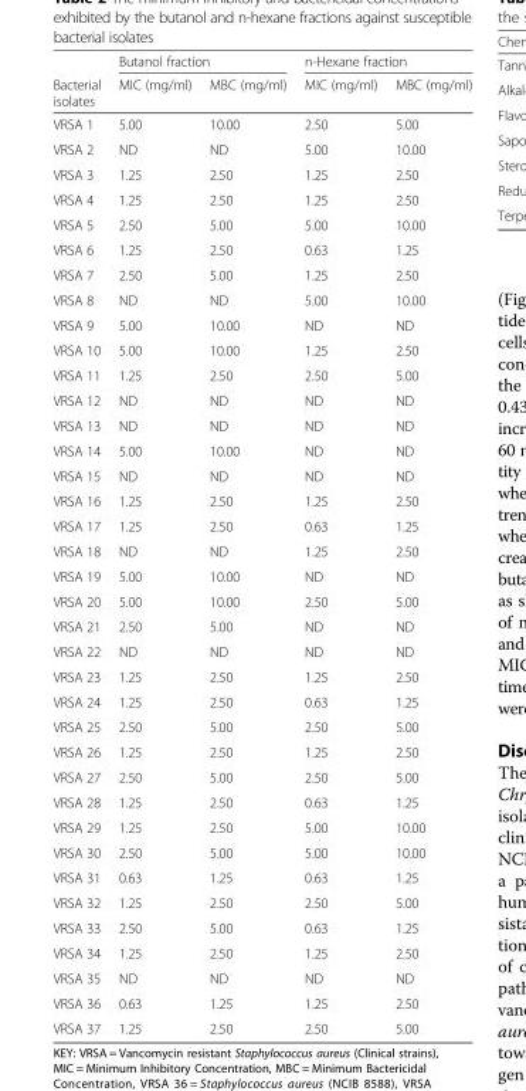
<table><thead><tr><td rowspan="2">Bacterial isolates</td><td colspan="2">Butanol fraction</td><td colspan="2">n-Hexane fraction</td></tr><tr><td>MIC (mg/ml)</td><td>MBC (mg/ml)</td><td>MIC (mg/ml)</td><td>MBC (mg/ml)</td></tr></thead><tbody><tr><td>VRSA 1</td><td>5.00</td><td>10.00</td><td>2.50</td><td>5.00</td></tr><tr><td>VRSA 2</td><td>ND</td><td>ND</td><td>5.00</td><td>10.00</td></tr><tr><td>VRSA 3</td><td>1.25</td><td>2.50</td><td>1.25</td><td>2.50</td></tr><tr><td>VRSA 4</td><td>1.25</td><td>2.50</td><td>1.25</td><td>2.50</td></tr><tr><td>VRSA 5</td><td>2.50</td><td>5.00</td><td>5.00</td><td>10.00</td></tr><tr><td>VRSA 6</td><td>1.25</td><td>2.50</td><td>0.63</td><td>1.25</td></tr><tr><td>VRSA 7</td><td>2.50</td><td>5.00</td><td>1.25</td><td>2.50</td></tr><tr><td>VRSA 8</td><td>ND</td><td>ND</td><td>5.00</td><td>10.00</td></tr><tr><td>VRSA 9</td><td>5.00</td><td>10.00</td><td>ND</td><td>ND</td></tr><tr><td>VRSA 10</td><td>5.00</td><td>10.00</td><td>1.25</td><td>2.50</td></tr><tr><td>VRSA 11</td><td>1.25</td><td>2.50</td><td>2.50</td><td>5.00</td></tr><tr><td>VRSA 12</td><td>ND</td><td>ND</td><td>ND</td><td>ND</td></tr><tr><td>VRSA 13</td><td>ND</td><td>ND</td><td>ND</td><td>ND</td></tr><tr><td>VRSA 14</td><td>5.00</td><td>10.00</td><td>ND</td><td>ND</td></tr><tr><td>VRSA 15</td><td>ND</td><td>ND</td><td>ND</td><td>ND</td></tr><tr><td>VRSA 16</td><td>1.25</td><td>2.50</td><td>1.25</td><td>2.50</td></tr><tr><td>VRSA 17</td><td>1.25</td><td>2.50</td><td>0.63</td><td>1.25</td></tr><tr><td>VRSA 18</td><td>ND</td><td>ND</td><td>1.25</td><td>2.50</td></tr><tr><td>VRSA 19</td><td>5.00</td><td>10.00</td><td>ND</td><td>ND</td></tr><tr><td>VRSA 20</td><td>5.00</td><td>10.00</td><td>2.50</td><td>5.00</td></tr><tr><td>VRSA 21</td><td>2.50</td><td>5.00</td><td>ND</td><td>ND</td></tr><tr><td>VRSA 22</td><td>ND</td><td>ND</td><td>ND</td><td>ND</td></tr><tr><td>VRSA 23</td><td>1.25</td><td>2.50</td><td>1.25</td><td>2.50</td></tr><tr><td>VRSA 24</td><td>1.25</td><td>2.50</td><td>0.63</td><td>1.25</td></tr><tr><td>VRSA 25</td><td>2.50</td><td>5.00</td><td>2.50</td><td>5.00</td></tr><tr><td>VRSA 26</td><td>1.25</td><td>2.50</td><td>1.25</td><td>2.50</td></tr><tr><td>VRSA 27</td><td>2.50</td><td>5.00</td><td>2.50</td><td>5.00</td></tr><tr><td>VRSA 28</td><td>1.25</td><td>2.50</td><td>0.63</td><td>1.25</td></tr><tr><td>VRSA 29</td><td>1.25</td><td>2.50</td><td>5.00</td><td>10.00</td></tr><tr><td>VRSA 30</td><td>2.50</td><td>5.00</td><td>5.00</td><td>10.00</td></tr><tr><td>VRSA 31</td><td>0.63</td><td>1.25</td><td>0.63</td><td>1.25</td></tr><tr><td>VRSA 32</td><td>1.25</td><td>2.50</td><td>2.50</td><td>5.00</td></tr><tr><td>VRSA 33</td><td>2.50</td><td>5.00</td><td>0.63</td><td>1.25</td></tr><tr><td>VRSA 34</td><td>1.25</td><td>2.50</td><td>1.25</td><td>2.50</td></tr><tr><td>VRSA 35</td><td>ND</td><td>ND</td><td>ND</td><td>ND</td></tr><tr><td>VRSA 36</td><td>0.63</td><td>1.25</td><td>1.25</td><td>2.50</td></tr><tr><td>VRSA 37</td><td>1.25</td><td>2.50</td><td>2.50</td><td>5.00</td></tr></tbody></table>